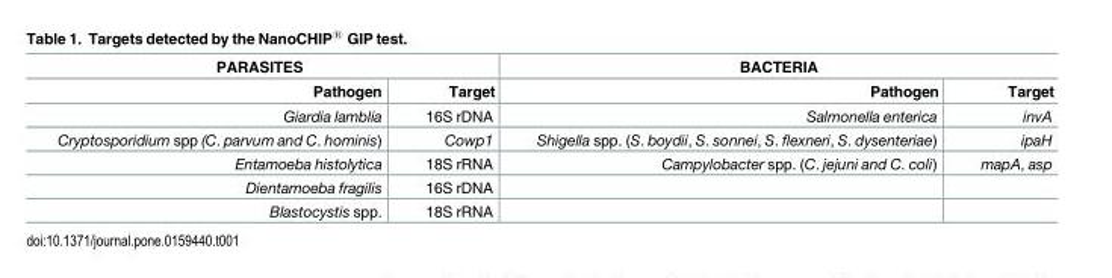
<table><thead><tr><td colspan="2">PARASITES</td><td colspan="2">BACTERIA</td></tr><tr><td>Pathogen</td><td>Target</td><td>Pathogen</td><td>Target</td></tr></thead><tbody><tr><td>Giardia lamblia</td><td>16S rDNA</td><td>Salmonella enterica</td><td>invA</td></tr><tr><td>Cryptosporidium spp (C. parvum and C. hominis)</td><td>Cowp1</td><td>Shigella spp. (S. boydii, S. sonnei, S. flexneri, S. dysenteriae)</td><td>ipaH</td></tr><tr><td>Entamoeba histolytica</td><td>18S rRNA</td><td>Campylobacter spp. (C. jejuni and C. coli)</td><td>mapA, asp</td></tr><tr><td>Dientamoeba fragilis</td><td>16S rDNA</td><td></td><td></td></tr><tr><td>Blastocystis spp.</td><td>18S rRNA</td><td></td><td></td></tr></tbody></table>